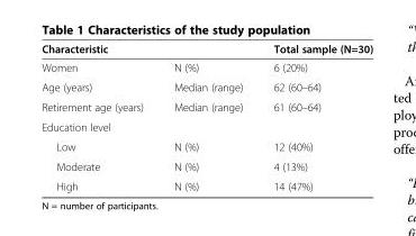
<table><thead><tr><td>Characteristic</td><td></td><td>Total sample (N=30)</td></tr></thead><tbody><tr><td>Women</td><td>N (%)</td><td>6 (20%)</td></tr><tr><td>Age (years)</td><td>Median (range)</td><td>62 (60–64)</td></tr><tr><td>Retirement age (years)</td><td>Median (range)</td><td>61 (60–64)</td></tr><tr><td colspan="3">Education level</td></tr><tr><td>Low</td><td>N (%)</td><td>12 (40%)</td></tr><tr><td>Moderate</td><td>N (%)</td><td>4 (13%)</td></tr><tr><td>High</td><td>N (%)</td><td>14 (47%)</td></tr></tbody></table>